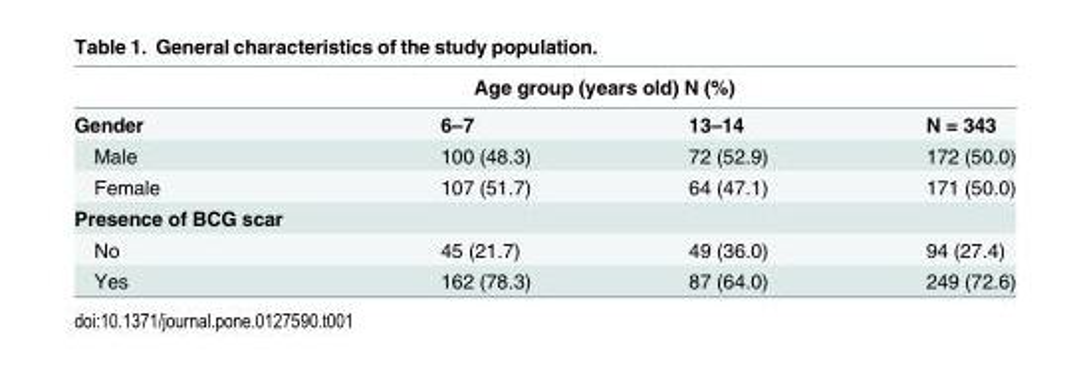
<table><thead><tr><td rowspan="2">Gender</td><td colspan="2">Age group (years old) N (%)</td><td rowspan="2">N = 343</td></tr><tr><td>6–7</td><td>13–14</td></tr></thead><tbody><tr><td>Male</td><td>100 (48.3)</td><td>72 (52.9)</td><td>172 (50.0)</td></tr><tr><td>Female</td><td>107 (51.7)</td><td>64 (47.1)</td><td>171 (50.0)</td></tr><tr><td colspan="4">Presence of BCG scar</td></tr><tr><td>No</td><td>45 (21.7)</td><td>49 (36.0)</td><td>94 (27.4)</td></tr><tr><td>Yes</td><td>162 (78.3)</td><td>87 (64.0)</td><td>249 (72.6)</td></tr></tbody></table>